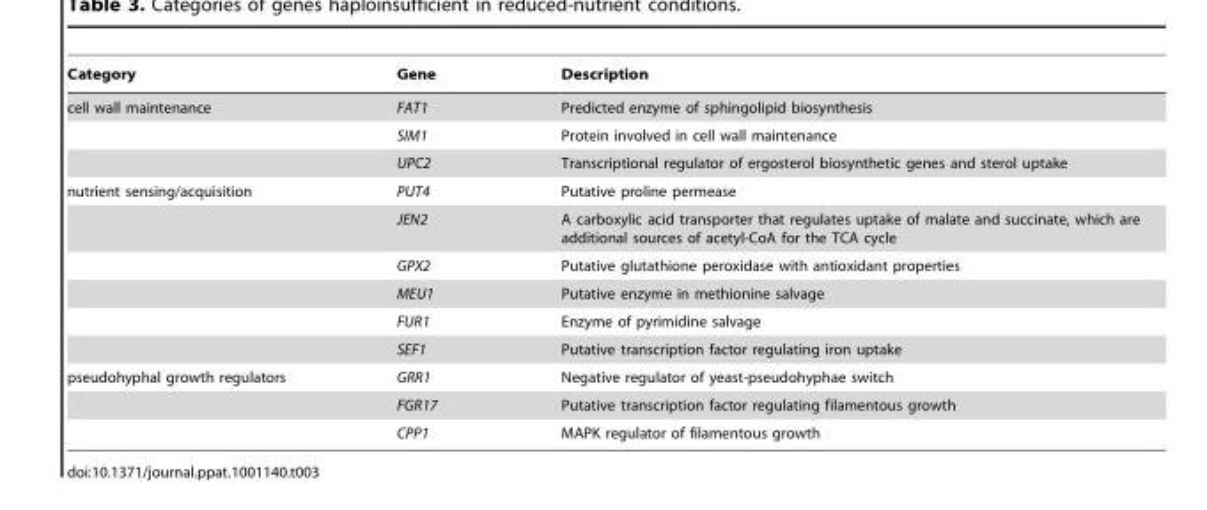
<table><thead><tr><td>Category</td><td>Gene</td><td>Description</td></tr></thead><tbody><tr><td rowspan="3">cell wall maintenance</td><td>FAT1</td><td>Predicted enzyme of sphingolipid biosynthesis</td></tr><tr><td>SIM1</td><td>Protein involved in cell wall maintenance</td></tr><tr><td>UPC2</td><td>Transcriptional regulator of ergosterol biosynthetic genes and sterol uptake</td></tr><tr><td rowspan="6">nutrient sensing/acquisition</td><td>PUT4</td><td>Putative proline permease</td></tr><tr><td>JEN2</td><td>A carboxylic acid transporter that regulates uptake of malate and succinate, which are additional sources of acetyl-CoA for the TCA cycle</td></tr><tr><td>GPX2</td><td>Putative glutathione peroxidase with antioxidant properties</td></tr><tr><td>MEU1</td><td>Putative enzyme in methionine salvage</td></tr><tr><td>FUR1</td><td>Enzyme of pyrimidine salvage</td></tr><tr><td>SEF1</td><td>Putative transcription factor regulating iron uptake</td></tr><tr><td rowspan="3">pseudohyphal growth regulators</td><td>GRR1</td><td>Negative regulator of yeast-pseudohyphae switch</td></tr><tr><td>FGR17</td><td>Putative transcription factor regulating filamentous growth</td></tr><tr><td>CPP1</td><td>MAPK regulator of filamentous growth</td></tr></tbody></table>